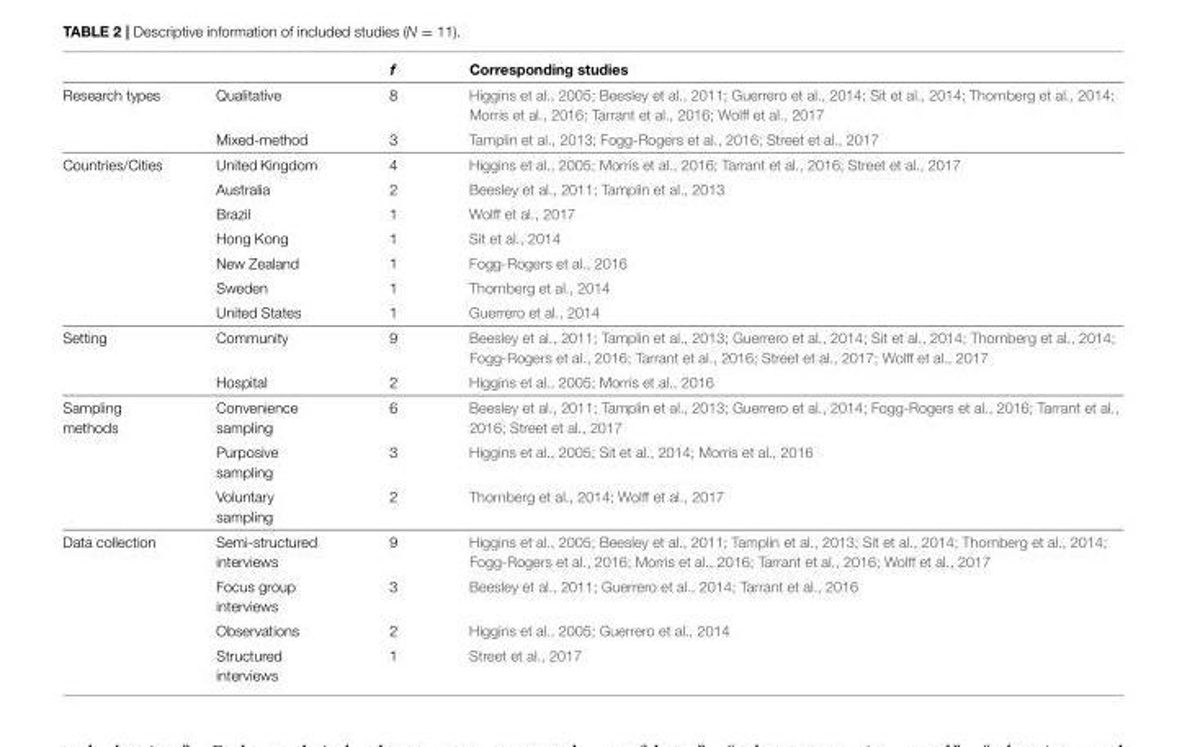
<table><thead><tr><td></td><td></td><td>f</td><td>Corresponding studies</td></tr></thead><tbody><tr><td rowspan="2">Research types</td><td>Qualitative</td><td>8</td><td>Higgins et al., 2005; Beesley et al., 2011; Guerrero et al., 2014; Sit et al., 2014; Thornberg et al., 2014; Morris et al., 2016; Tarrant et al., 2016; Wolff et al., 2017</td></tr><tr><td>Mixed-method</td><td>3</td><td>Tamplin et al., 2013; Fogg-Rogers et al., 2016; Street et al., 2017</td></tr><tr><td rowspan="7">Countries/Cities</td><td>United Kingdom</td><td>4</td><td>Higgins et al., 2005; Morris et al., 2016; Tarrant et al., 2016; Street et al., 2017</td></tr><tr><td>Australia</td><td>2</td><td>Beesley et al., 2011; Tamplin et al., 2013</td></tr><tr><td>Brazil</td><td>1</td><td>Wolff et al., 2017</td></tr><tr><td>Hong Kong</td><td>1</td><td>Sit et al., 2014</td></tr><tr><td>New Zealand</td><td>1</td><td>Fogg-Rogers et al., 2016</td></tr><tr><td>Sweden</td><td>1</td><td>Thornberg et al., 2014</td></tr><tr><td>United States</td><td>1</td><td>Guerrero et al., 2014</td></tr><tr><td rowspan="2">Setting</td><td>Community</td><td>9</td><td>Beesley et al., 2011; Tamplin et al., 2013; Guerrero et al., 2014; Sit et al., 2014; Thornberg et al., 2014; Fogg-Rogers et al., 2016; Tarrant et al., 2016; Street et al., 2017; Wolff et al., 2017</td></tr><tr><td>Hospital</td><td>2</td><td>Higgins et al., 2005; Morris et al., 2016</td></tr><tr><td rowspan="3">Sampling methods</td><td>Convenience sampling</td><td>6</td><td>Beesley et al., 2011; Tamplin et al., 2013; Guerrero et al., 2014; Fogg-Rogers et al., 2016; Tarrant et al., 2016; Street et al., 2017</td></tr><tr><td>Purposive sampling</td><td>3</td><td>Higgins et al., 2005; Sit et al., 2014; Morris et al., 2016</td></tr><tr><td>Voluntary sampling</td><td>2</td><td>Thornberg et al., 2014; Wolff et al., 2017</td></tr><tr><td rowspan="4">Data collection</td><td>Semi-structured interviews</td><td>9</td><td>Higgins et al., 2005; Beesley et al., 2011; Tamplin et al., 2013; Sit et al., 2014; Thornberg et al., 2014; Fogg-Rogers et al., 2016; Morris et al., 2016; Tarrant et al., 2016; Wolff et al., 2017</td></tr><tr><td>Focus group interviews</td><td>3</td><td>Beesley et al., 2011; Guerrero et al., 2014; Tarrant et al., 2016</td></tr><tr><td>Observations</td><td>2</td><td>Higgins et al., 2005; Guerrero et al., 2014</td></tr><tr><td>Structured interviews</td><td>1</td><td>Street et al., 2017</td></tr></tbody></table>